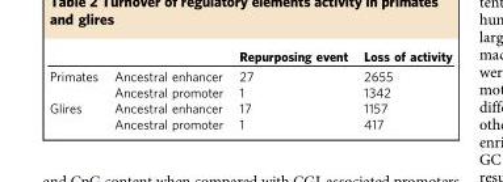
<table><thead><tr><td></td><td></td><td>Repurposing event</td><td>Loss of activity</td></tr></thead><tbody><tr><td rowspan="2">Primates</td><td>Ancestral enhancer</td><td>27</td><td>2655</td></tr><tr><td>Ancestral promoter</td><td>1</td><td>1342</td></tr><tr><td rowspan="2">Glires</td><td>Ancestral enhancer</td><td>17</td><td>1157</td></tr><tr><td>Ancestral promoter</td><td>1</td><td>417</td></tr></tbody></table>